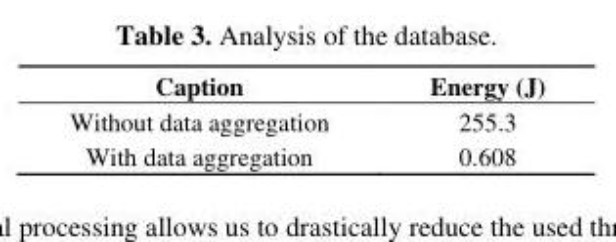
<table><thead><tr><td>Caption</td><td>Energy (J)</td></tr></thead><tbody><tr><td>Without data aggregation</td><td>255.3</td></tr><tr><td>With data aggregation</td><td>0.608</td></tr></tbody></table>